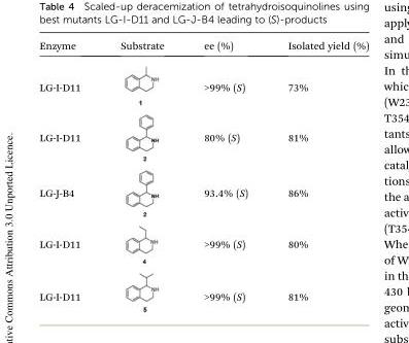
<table><thead><tr><td>Enzyme</td><td>Substrate</td><td>ee (%)</td><td>Isolated yield (%)</td></tr></thead><tbody><tr><td>LG-I-D11</td><td></td><td>&gt;99% (S)</td><td>73%</td></tr><tr><td>LG-I-D11</td><td></td><td>80% (S)</td><td>81%</td></tr><tr><td>LG-J-B4</td><td></td><td>93.4% (S)</td><td>86%</td></tr><tr><td>LG-I-D11</td><td></td><td>&gt;99% (S)</td><td>80%</td></tr><tr><td>LG-I-D11</td><td></td><td>&gt;99% (S)</td><td>81%</td></tr></tbody></table>